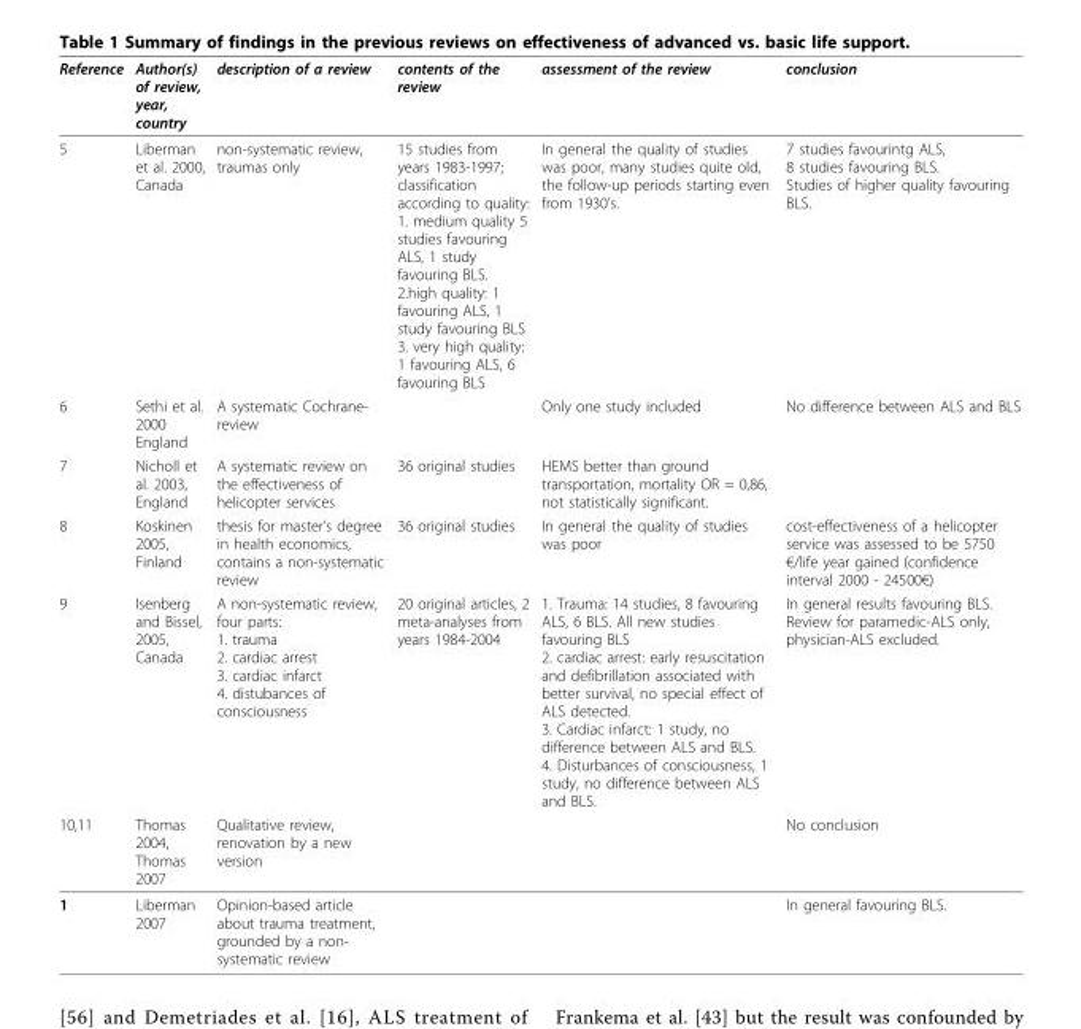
<table><thead><tr><td>Reference</td><td>Author(s) of review, year, country</td><td>description of a review</td><td>contents of the review</td><td>assessment of the review</td><td>conclusion</td></tr></thead><tbody><tr><td>5</td><td>Liberman et al. 2000, Canada</td><td>non-systematic review, traumas only</td><td>15 studies from years 1983-1997; classification according to quality: 1. medium quality 5 studies favouring ALS, 1 study favouring BLS. 2.high quality: 1 favouring ALS, 1 study favouring BLS 3. very high quality: 1 favouring ALS, 6 favouring BLS</td><td>In general the quality of studies was poor, many studies quite old, the follow-up periods starting even from 1930’s.</td><td>7 studies favourintg ALS, 8 studies favouring BLS. Studies of higher quality favouring BLS.</td></tr><tr><td>6</td><td>Sethi et al. 2000 England</td><td>A systematic Cochrane- review</td><td></td><td>Only one study included</td><td>No difference between ALS and BLS</td></tr><tr><td>7</td><td>Nicholl et al. 2003, England</td><td>A systematic review on the effectiveness of helicopter services</td><td>36 original studies</td><td>HEMS better than ground transportation, mortality OR = 0,86, not statistically significant.</td><td></td></tr><tr><td>8</td><td>Koskinen 2005, Finland</td><td>thesis for master’s degree in health economics, contains a non-systematic review</td><td>36 original studies</td><td>In general the quality of studies was poor</td><td>cost-effectiveness of a helicopter service was assessed to be 5750 €/life year gained (confidence interval 2000 - 24500€)</td></tr><tr><td>9</td><td>Isenberg and Bissel, 2005, Canada</td><td>A non-systematic review, four parts: 1. trauma 2. cardiac arrest 3. cardiac infarct 4. distubances of consciousness</td><td>20 original articles, 2 meta-analyses from years 1984-2004</td><td>1. Trauma: 14 studies, 8 favouring ALS, 6 BLS. All new studies favouring BLS 2. cardiac arrest: early resuscitation and defibrillation associated with better survival, no special effect of ALS detected. 3. Cardiac infarct: 1 study, no difference between ALS and BLS. 4. Disturbances of consciousness, 1 study, no difference between ALS and BLS.</td><td>In general results favouring BLS. Review for paramedic-ALS only, physician-ALS excluded.</td></tr><tr><td>10,11</td><td>Thomas 2004, Thomas 2007</td><td>Qualitative review, renovation by a new version</td><td></td><td></td><td>No conclusion</td></tr><tr><td>1</td><td>Liberman 2007</td><td>Opinion-based article about trauma treatment, grounded by a non- systematic review</td><td></td><td></td><td>In general favouring BLS.</td></tr></tbody></table>